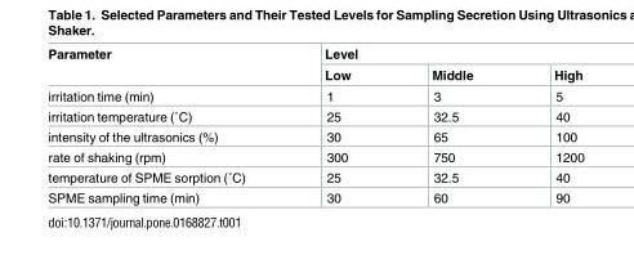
<table><thead><tr><td rowspan="2">Parameter</td><td colspan="3">Level</td></tr><tr><td>Low</td><td>Middle</td><td>High</td></tr></thead><tbody><tr><td>irritation time (min)</td><td>1</td><td>3</td><td>5</td></tr><tr><td>irritation temperature (˚C)</td><td>25</td><td>32.5</td><td>40</td></tr><tr><td>intensity of the ultrasonics (%)</td><td>30</td><td>65</td><td>100</td></tr><tr><td>rate of shaking (rpm)</td><td>300</td><td>750</td><td>1200</td></tr><tr><td>temperature of SPME sorption (˚C)</td><td>25</td><td>32.5</td><td>40</td></tr><tr><td>SPME sampling time (min)</td><td>30</td><td>60</td><td>90</td></tr></tbody></table>